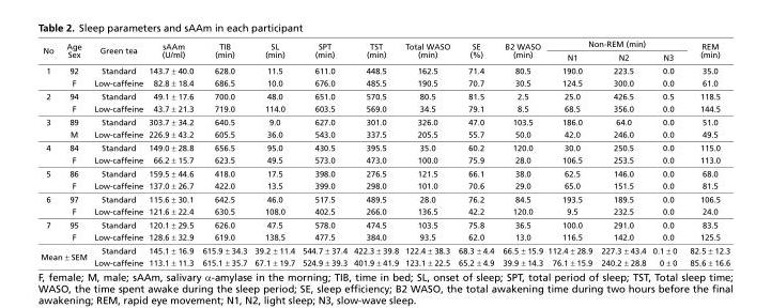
<table><thead><tr><td rowspan="2">No</td><td rowspan="2">Age Sex</td><td rowspan="2">Green tea</td><td rowspan="2">sAAm (U/ml)</td><td rowspan="2">TIB (min)</td><td rowspan="2">SL (min)</td><td rowspan="2">SPT (min)</td><td rowspan="2">TST (min)</td><td rowspan="2">Total WASO (min)</td><td rowspan="2">SE (%)</td><td rowspan="2">B2 WASO (min)</td><td colspan="3">Non-REM (min)</td><td rowspan="2">REM (min)</td></tr><tr><td>N1</td><td>N2</td><td>N3</td></tr></thead><tbody><tr><td rowspan="2">1</td><td>92</td><td>Standard</td><td>143.7 ± 40.0</td><td>628.0</td><td>11.5</td><td>611.0</td><td>448.5</td><td>162.5</td><td>71.4</td><td>80.5</td><td>190.0</td><td>223.5</td><td>0.0</td><td>35.0</td></tr><tr><td>F</td><td>Low-caffeine</td><td>82.8 ± 18.4</td><td>686.5</td><td>10.0</td><td>676.0</td><td>485.5</td><td>190.5</td><td>70.7</td><td>30.5</td><td>124.5</td><td>300.0</td><td>0.0</td><td>61.0</td></tr><tr><td rowspan="2">2</td><td>94</td><td>Standard</td><td>49.1 ± 17.6</td><td>700.0</td><td>48.0</td><td>651.0</td><td>570.5</td><td>80.5</td><td>81.5</td><td>2.5</td><td>25.0</td><td>426.5</td><td>0.5</td><td>118.5</td></tr><tr><td>F</td><td>Low-caffeine</td><td>43.7 ± 21.3</td><td>719.0</td><td>114.0</td><td>603.5</td><td>569.0</td><td>34.5</td><td>79.1</td><td>8.5</td><td>68.5</td><td>356.0</td><td>0.0</td><td>144.5</td></tr><tr><td rowspan="2">3</td><td>89</td><td>Standard</td><td>303.7 ± 34.2</td><td>640.5</td><td>9.0</td><td>627.0</td><td>301.0</td><td>326.0</td><td>47.0</td><td>103.5</td><td>186.0</td><td>64.0</td><td>0.0</td><td>51.0</td></tr><tr><td>M</td><td>Low-caffeine</td><td>226.9 ± 43.2</td><td>605.5</td><td>36.0</td><td>543.0</td><td>337.5</td><td>205.5</td><td>55.7</td><td>50.0</td><td>42.0</td><td>246.0</td><td>0.0</td><td>49.5</td></tr><tr><td rowspan="2">4</td><td>84</td><td>Standard</td><td>149.0 ± 28.8</td><td>656.5</td><td>95.0</td><td>430.5</td><td>395.5</td><td>35.0</td><td>60.2</td><td>120.0</td><td>30.0</td><td>250.5</td><td>0.0</td><td>115.0</td></tr><tr><td>F</td><td>Low-caffeine</td><td>66.2 ± 15.7</td><td>623.5</td><td>49.5</td><td>573.0</td><td>473.0</td><td>100.0</td><td>75.9</td><td>28.0</td><td>106.5</td><td>253.5</td><td>0.0</td><td>113.0</td></tr><tr><td rowspan="2">5</td><td>86</td><td>Standard</td><td>159.5 ± 44.6</td><td>418.0</td><td>17.5</td><td>398.0</td><td>276.5</td><td>121.5</td><td>66.1</td><td>38.0</td><td>62.5</td><td>146.0</td><td>0.0</td><td>68.0</td></tr><tr><td>F</td><td>Low-caffeine</td><td>137.0 ± 26.7</td><td>422.0</td><td>13.5</td><td>399.0</td><td>298.0</td><td>101.0</td><td>70.6</td><td>29.0</td><td>65.0</td><td>151.5</td><td>0.0</td><td>81.5</td></tr><tr><td rowspan="2">6</td><td>97</td><td>Standard</td><td>115.6 ± 30.1</td><td>642.5</td><td>46.0</td><td>517.5</td><td>489.5</td><td>28.0</td><td>76.2</td><td>84.5</td><td>193.5</td><td>189.5</td><td>0.0</td><td>106.5</td></tr><tr><td>F</td><td>Low-caffeine</td><td>121.6 ± 22.4</td><td>630.5</td><td>108.0</td><td>402.5</td><td>266.0</td><td>136.5</td><td>42.2</td><td>120.0</td><td>9.5</td><td>232.5</td><td>0.0</td><td>24.0</td></tr><tr><td rowspan="2">7</td><td>95</td><td>Standard</td><td>120.1 ± 29.5</td><td>626.0</td><td>47.5</td><td>578.0</td><td>474.5</td><td>103.5</td><td>75.8</td><td>36.5</td><td>100.0</td><td>291.0</td><td>0.0</td><td>83.5</td></tr><tr><td>F</td><td>Low-caffeine</td><td>128.6 ± 32.9</td><td>619.0</td><td>138.5</td><td>477.5</td><td>384.0</td><td>93.5</td><td>62.0</td><td>13.0</td><td>116.5</td><td>142.0</td><td>0.0</td><td>125.5</td></tr><tr><td rowspan="2" colspan="2">Mean ± SEM</td><td>Standard</td><td>145.1 ± 16.9</td><td>615.9 ± 34.3</td><td>39.2 ± 11.4</td><td>544.7 ± 37.4</td><td>422.3 ± 39.8</td><td>122.4 ± 38.3</td><td>68.3 ± 4.4</td><td>66.5 ± 15.9</td><td>112.4 ± 28.9</td><td>227.3 ± 43.4</td><td>0.1 ± 0</td><td>82.5 ± 12.3</td></tr><tr><td>Low-caffeine</td><td>113.1 ± 11.3</td><td>615.1 ± 35.7</td><td>67.1 ± 19.7</td><td>524.9 ± 39.3</td><td>401.9 ± 41.9</td><td>123.1 ± 22.5</td><td>65.2 ± 4.9</td><td>39.9 ± 14.3</td><td>76.1 ± 15.9</td><td>240.2 ± 28.8</td><td>0 ± 0</td><td>85.6 ± 16.6</td></tr></tbody></table>